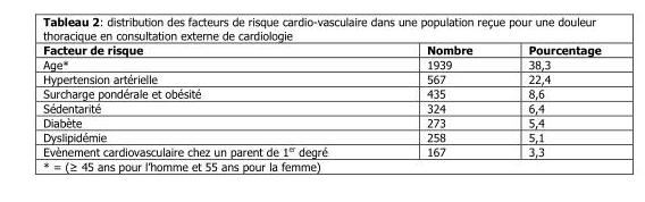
<table><thead><tr><td>Facteur de risque</td><td>Nombre</td><td>Pourcentage</td></tr></thead><tbody><tr><td>Age*</td><td>1939</td><td>38,3</td></tr><tr><td>Hypertension artérielle</td><td>567</td><td>22,4</td></tr><tr><td>Surcharge pondérale et obésité</td><td>435</td><td>8,6</td></tr><tr><td>Sédentarité</td><td>324</td><td>6,4</td></tr><tr><td>Diabète</td><td>273</td><td>5,4</td></tr><tr><td>Dyslipidémie</td><td>258</td><td>5,1</td></tr><tr><td>Evènement cardiovasculaire chez un parent de 1<sup>er</sup> degré</td><td>167</td><td>3,3</td></tr></tbody></table>